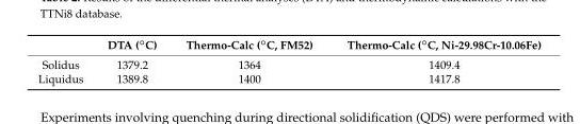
<table><thead><tr><td></td><td>DTA (◦C)</td><td>Thermo-Calc (◦C, FM52)</td><td>Thermo-Calc (◦C, Ni-29.98Cr-10.06Fe)</td></tr></thead><tbody><tr><td>Solidus</td><td>1379.2</td><td>1364</td><td>1409.4</td></tr><tr><td>Liquidus</td><td>1389.8</td><td>1400</td><td>1417.8</td></tr></tbody></table>